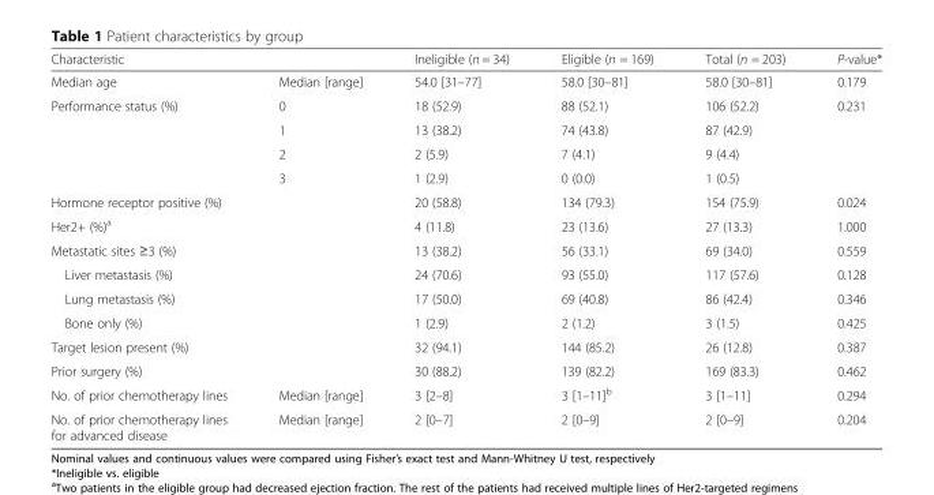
<table><thead><tr><td>Characteristic</td><td></td><td>Ineligible (n = 34)</td><td>Eligible (n = 169)</td><td>Total (n = 203)</td><td>P-value*</td></tr></thead><tbody><tr><td>Median age</td><td>Median [range]</td><td>54.0 [31–77]</td><td>58.0 [30–81]</td><td>58.0 [30–81]</td><td>0.179</td></tr><tr><td rowspan="4">Performance status (%)</td><td>0</td><td>18 (52.9)</td><td>88 (52.1)</td><td>106 (52.2)</td><td>0.231</td></tr><tr><td>1</td><td>13 (38.2)</td><td>74 (43.8)</td><td>87 (42.9)</td><td></td></tr><tr><td>2</td><td>2 (5.9)</td><td>7 (4.1)</td><td>9 (4.4)</td><td></td></tr><tr><td>3</td><td>1 (2.9)</td><td>0 (0.0)</td><td>1 (0.5)</td><td></td></tr><tr><td>Hormone receptor positive (%)</td><td></td><td>20 (58.8)</td><td>134 (79.3)</td><td>154 (75.9)</td><td>0.024</td></tr><tr><td>Her2+ (%)<sup>a</sup></td><td></td><td>4 (11.8)</td><td>23 (13.6)</td><td>27 (13.3)</td><td>1.000</td></tr><tr><td>Metastatic sites ≥3 (%)</td><td></td><td>13 (38.2)</td><td>56 (33.1)</td><td>69 (34.0)</td><td>0.559</td></tr><tr><td>Liver metastasis (%)</td><td></td><td>24 (70.6)</td><td>93 (55.0)</td><td>117 (57.6)</td><td>0.128</td></tr><tr><td>Lung metastasis (%)</td><td></td><td>17 (50.0)</td><td>69 (40.8)</td><td>86 (42.4)</td><td>0.346</td></tr><tr><td>Bone only (%)</td><td></td><td>1 (2.9)</td><td>2 (1.2)</td><td>3 (1.5)</td><td>0.425</td></tr><tr><td>Target lesion present (%)</td><td></td><td>32 (94.1)</td><td>144 (85.2)</td><td>26 (12.8)</td><td>0.387</td></tr><tr><td>Prior surgery (%)</td><td></td><td>30 (88.2)</td><td>139 (82.2)</td><td>169 (83.3)</td><td>0.462</td></tr><tr><td>No. of prior chemotherapy lines</td><td>Median [range]</td><td>3 [2–8]</td><td>3 [1–11]<sup>b</sup></td><td>3 [1–11]</td><td>0.294</td></tr><tr><td>No. of prior chemotherapy lines for advanced disease</td><td>Median [range]</td><td>2 [0–7]</td><td>2 [0–9]</td><td>2 [0–9]</td><td>0.204</td></tr></tbody></table>